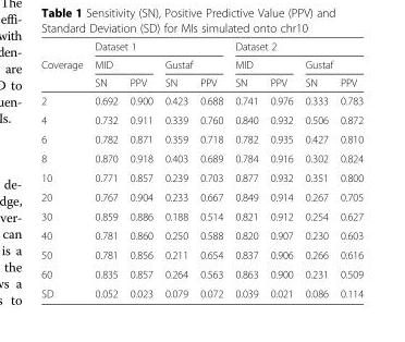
<table><thead><tr><td rowspan="3">Coverage</td><td colspan="4">Dataset 1</td><td colspan="4">Dataset 2</td></tr><tr><td colspan="2">MID</td><td colspan="2">Gustaf</td><td colspan="2">MID</td><td colspan="2">Gustaf</td></tr><tr><td>SN</td><td>PPV</td><td>SN</td><td>PPV</td><td>SN</td><td>PPV</td><td>SN</td><td>PPV</td></tr></thead><tbody><tr><td>2</td><td>0.692</td><td>0.900</td><td>0.423</td><td>0.688</td><td>0.741</td><td>0.976</td><td>0.333</td><td>0.783</td></tr><tr><td>4</td><td>0.732</td><td>0.911</td><td>0.339</td><td>0.760</td><td>0.840</td><td>0.932</td><td>0.506</td><td>0.872</td></tr><tr><td>6</td><td>0.782</td><td>0.871</td><td>0.359</td><td>0.718</td><td>0.782</td><td>0.935</td><td>0.427</td><td>0.810</td></tr><tr><td>8</td><td>0.870</td><td>0.918</td><td>0.403</td><td>0.689</td><td>0.784</td><td>0.916</td><td>0.302</td><td>0.824</td></tr><tr><td>10</td><td>0.771</td><td>0.857</td><td>0.239</td><td>0.703</td><td>0.877</td><td>0.932</td><td>0.351</td><td>0.800</td></tr><tr><td>20</td><td>0.767</td><td>0.904</td><td>0.233</td><td>0.667</td><td>0.849</td><td>0.914</td><td>0.267</td><td>0.705</td></tr><tr><td>30</td><td>0.859</td><td>0.886</td><td>0.188</td><td>0.514</td><td>0.821</td><td>0.912</td><td>0.254</td><td>0.627</td></tr><tr><td>40</td><td>0.781</td><td>0.860</td><td>0.250</td><td>0.588</td><td>0.820</td><td>0.907</td><td>0.230</td><td>0.603</td></tr><tr><td>50</td><td>0.781</td><td>0.856</td><td>0.211</td><td>0.654</td><td>0.837</td><td>0.906</td><td>0.266</td><td>0.616</td></tr><tr><td>60</td><td>0.835</td><td>0.857</td><td>0.264</td><td>0.563</td><td>0.863</td><td>0.900</td><td>0.231</td><td>0.509</td></tr><tr><td>SD</td><td>0.052</td><td>0.023</td><td>0.079</td><td>0.072</td><td>0.039</td><td>0.021</td><td>0.086</td><td>0.114</td></tr></tbody></table>